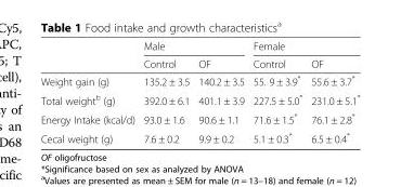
<table><thead><tr><td rowspan="2"></td><td colspan="2">Male</td><td colspan="2">Female</td></tr><tr><td>Control</td><td>OF</td><td>Control</td><td>OF</td></tr></thead><tbody><tr><td>Weight gain (g)</td><td>135.2 ± 3.5</td><td>140.2 ± 3.5</td><td>55. 9 ± 3.9*</td><td>55.6 ± 3.7*</td></tr><tr><td>Total weight<sup>b</sup> (g)</td><td>392.0 ± 6.1</td><td>401.1 ± 3.9</td><td>227.5 ± 5.0*</td><td>231.0 ± 5.1*</td></tr><tr><td>Energy Intake (kcal/d)</td><td>93.0 ± 1.6</td><td>90.6 ± 1.1</td><td>71.6 ± 1.5*</td><td>76.1 ± 2.8*</td></tr><tr><td>Cecal weight (g)</td><td>7.6 ± 0.2</td><td>9.9 ± 0.2</td><td>5.1 ± 0.3*</td><td>6.5 ± 0.4*</td></tr></tbody></table>